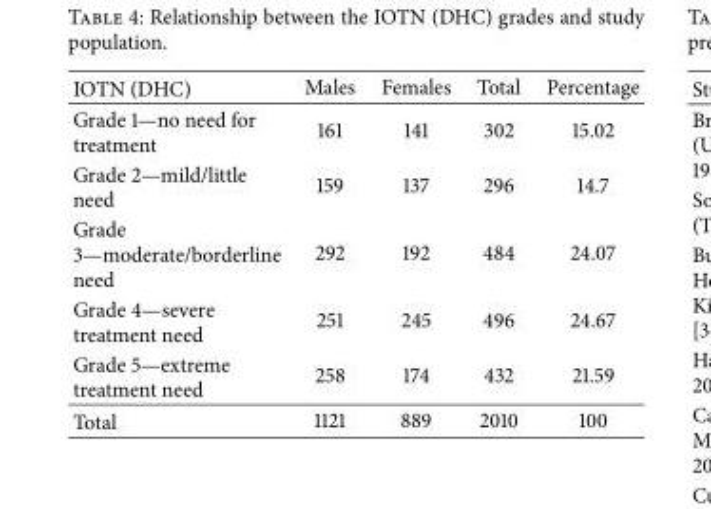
<table><thead><tr><td>IOTN (DHC)</td><td>Males</td><td>Females</td><td>Total</td><td>Percentage</td></tr></thead><tbody><tr><td>Grade 1—no need for treatment</td><td>161</td><td>141</td><td>302</td><td>15.02</td></tr><tr><td>Grade 2—mild/little need</td><td>159</td><td>137</td><td>296</td><td>14.7</td></tr><tr><td>Grade 3—moderate/borderline need</td><td>292</td><td>192</td><td>484</td><td>24.07</td></tr><tr><td>Grade 4—severe treatment need</td><td>251</td><td>245</td><td>496</td><td>24.67</td></tr><tr><td>Grade 5—extreme treatment need</td><td>258</td><td>174</td><td>432</td><td>21.59</td></tr><tr><td>Total</td><td>1121</td><td>889</td><td>2010</td><td>100</td></tr></tbody></table>